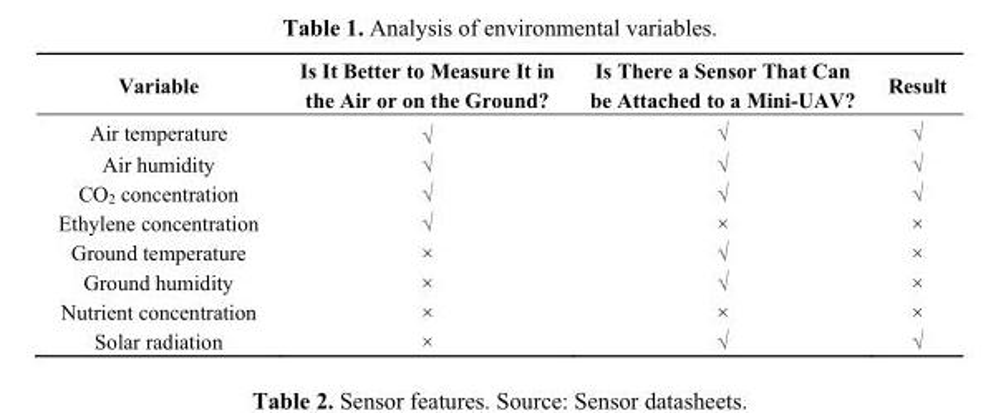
<table><thead><tr><td>Variable</td><td>Is It Better to Measure It in the Air or on the Ground?</td><td>Is There a Sensor That Can be Attached to a Mini-UAV?</td><td>Result</td></tr></thead><tbody><tr><td>Air temperature</td><td>√</td><td>√</td><td>√</td></tr><tr><td>Air humidity</td><td>√</td><td>√</td><td>√</td></tr><tr><td>CO<sub>2</sub> concentration</td><td>√</td><td>√</td><td>√</td></tr><tr><td>Ethylene concentration</td><td>√</td><td>×</td><td>×</td></tr><tr><td>Ground temperature</td><td>×</td><td>√</td><td>×</td></tr><tr><td>Ground humidity</td><td>×</td><td>√</td><td>×</td></tr><tr><td>Nutrient concentration</td><td>×</td><td>×</td><td>×</td></tr><tr><td>Solar radiation</td><td>×</td><td>√</td><td>√</td></tr></tbody></table>